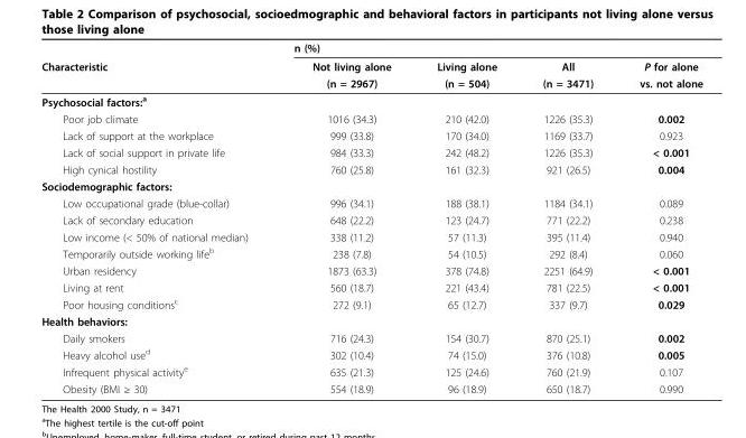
<table><thead><tr><td rowspan="3">Characteristic</td><td rowspan="3">n (%) Not living alone (n = 2967)</td><td rowspan="3">Living alone (n = 504)</td><td rowspan="3">All (n = 3471)</td><td rowspan="3">P for alone vs. not alone</td></tr><tr></tr><tr></tr></thead><tbody><tr><td colspan="5">Psychosocial factors:<sup>a</sup></td></tr><tr><td>Poor job climate</td><td>1016 (34.3)</td><td>210 (42.0)</td><td>1226 (35.3)</td><td>0.002</td></tr><tr><td>Lack of support at the workplace</td><td>999 (33.8)</td><td>170 (34.0)</td><td>1169 (33.7)</td><td>0.923</td></tr><tr><td>Lack of social support in private life</td><td>984 (33.3)</td><td>242 (48.2)</td><td>1226 (35.3)</td><td>&lt; 0.001</td></tr><tr><td>High cynical hostility</td><td>760 (25.8)</td><td>161 (32.3)</td><td>921 (26.5)</td><td>0.004</td></tr><tr><td colspan="5">Sociodemographic factors:</td></tr><tr><td>Low occupational grade (blue-collar)</td><td>996 (34.1)</td><td>188 (38.1)</td><td>1184 (34.1)</td><td>0.089</td></tr><tr><td>Lack of secondary education</td><td>648 (22.2)</td><td>123 (24.7)</td><td>771 (22.2)</td><td>0.238</td></tr><tr><td>Low income (&lt; 50% of national median)</td><td>338 (11.2)</td><td>57 (11.3)</td><td>395 (11.4)</td><td>0.940</td></tr><tr><td>Temporarily outside working life<sup>b</sup></td><td>238 (7.8)</td><td>54 (10.5)</td><td>292 (8.4)</td><td>0.060</td></tr><tr><td>Urban residency</td><td>1873 (63.3)</td><td>378 (74.8)</td><td>2251 (64.9)</td><td>&lt; 0.001</td></tr><tr><td>Living at rent</td><td>560 (18.7)</td><td>221 (43.4)</td><td>781 (22.5)</td><td>&lt; 0.001</td></tr><tr><td>Poor housing conditions<sup>c</sup></td><td>272 (9.1)</td><td>65 (12.7)</td><td>337 (9.7)</td><td>0.029</td></tr><tr><td colspan="5">Health behaviors:</td></tr><tr><td>Daily smokers</td><td>716 (24.3)</td><td>154 (30.7)</td><td>870 (25.1)</td><td>0.002</td></tr><tr><td>Heavy alcohol use<sup>d</sup></td><td>302 (10.4)</td><td>74 (15.0)</td><td>376 (10.8)</td><td>0.005</td></tr><tr><td>Infrequent physical activity<sup>e</sup></td><td>635 (21.3)</td><td>125 (24.6)</td><td>760 (21.9)</td><td>0.107</td></tr><tr><td>Obesity (BMI ≥ 30)</td><td>554 (18.9)</td><td>96 (18.9)</td><td>650 (18.7)</td><td>0.990</td></tr></tbody></table>